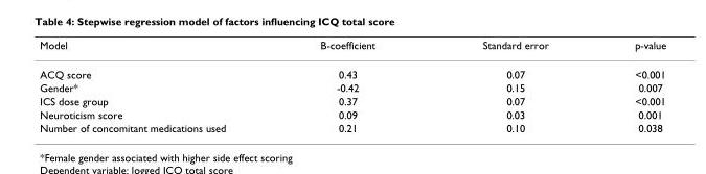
<table><thead><tr><td>Model</td><td>B-coefficient</td><td>Standard error</td><td>p-value</td></tr></thead><tbody><tr><td>ACQ score</td><td>0.43</td><td>0.07</td><td>&lt;0.001</td></tr><tr><td>Gender*</td><td>-0.42</td><td>0.15</td><td>0.007</td></tr><tr><td>ICS dose group</td><td>0.37</td><td>0.07</td><td>&lt;0.001</td></tr><tr><td>Neuroticism score</td><td>0.09</td><td>0.03</td><td>0.001</td></tr><tr><td>Number of concomitant medications used</td><td>0.21</td><td>0.10</td><td>0.038</td></tr></tbody></table>